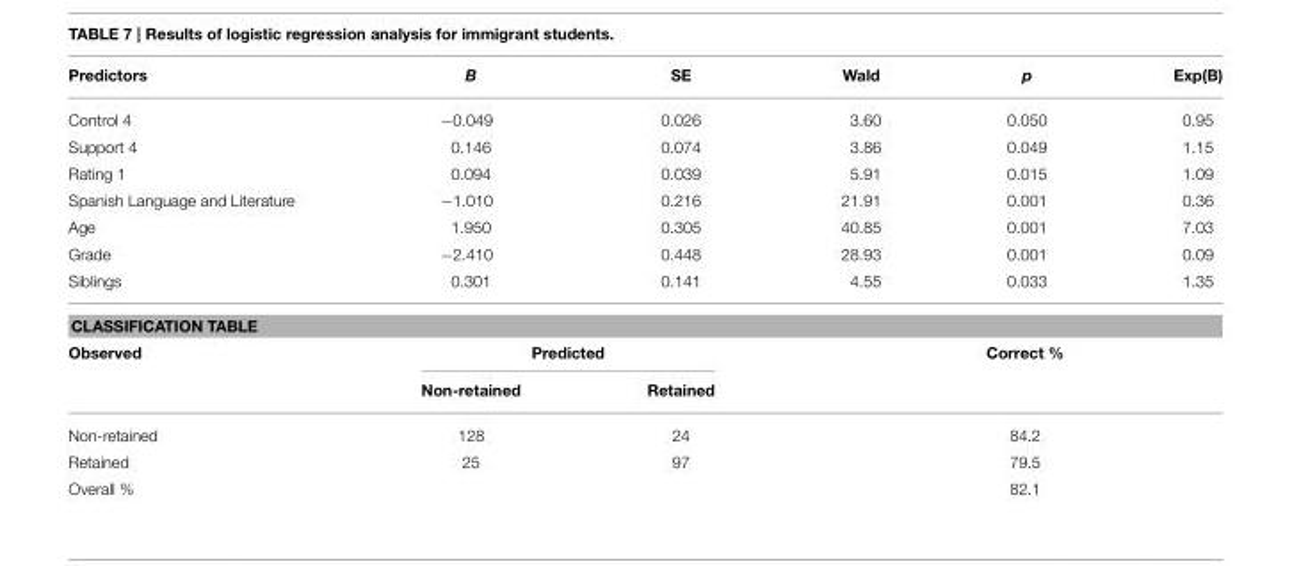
<table><thead><tr><td>Predictors</td><td>B</td><td>SE</td><td>Wald</td><td>p</td><td>Exp(B)</td></tr></thead><tbody><tr><td>Control 4</td><td>−0.049</td><td>0.026</td><td>3.60</td><td>0.050</td><td>0.95</td></tr><tr><td>Support 4</td><td>0.146</td><td>0.074</td><td>3.86</td><td>0.049</td><td>1.15</td></tr><tr><td>Rating 1</td><td>0.094</td><td>0.039</td><td>5.91</td><td>0.015</td><td>1.09</td></tr><tr><td>Spanish Language and Literature</td><td>−1.010</td><td>0.216</td><td>21.91</td><td>0.001</td><td>0.36</td></tr><tr><td>Age</td><td>1.950</td><td>0.305</td><td>40.85</td><td>0.001</td><td>7.03</td></tr><tr><td>Grade</td><td>−2.410</td><td>0.448</td><td>28.93</td><td>0.001</td><td>0.09</td></tr><tr><td>Siblings</td><td>0.301</td><td>0.141</td><td>4.55</td><td>0.033</td><td>1.35</td></tr><tr><td colspan="6">CLASSIFICATION TABLE</td></tr><tr><td rowspan="2">Observed</td><td colspan="2">Predicted</td><td colspan="3">Correct %</td></tr><tr><td>Non-retained</td><td>Retained</td><td></td><td></td><td></td></tr><tr><td>Non-retained</td><td>128</td><td>24</td><td colspan="3">84.2</td></tr><tr><td>Retained</td><td>25</td><td>97</td><td colspan="3">79.5</td></tr><tr><td>Overall %</td><td></td><td></td><td colspan="3">82.1</td></tr></tbody></table>